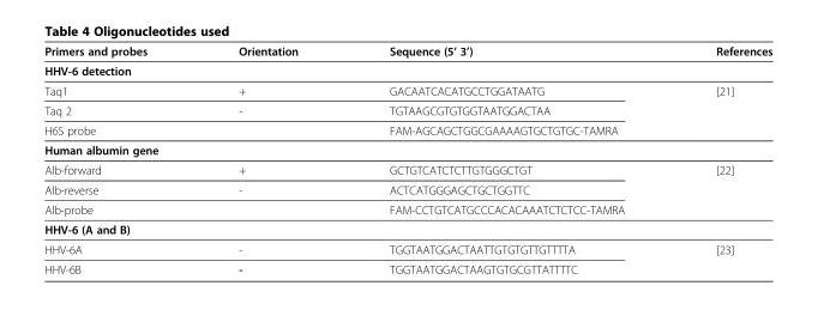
<table><thead><tr><td>Primers and probes</td><td>Orientation</td><td>Sequence (5’ 3’)</td><td>References</td></tr></thead><tbody><tr><td colspan="4">HHV-6 detection</td></tr><tr><td>Taq1</td><td>+</td><td>GACAATCACATGCCTGGATAATG</td><td rowspan="3">[21]</td></tr><tr><td>Taq 2</td><td>-</td><td>TGTAAGCGTGTGGTAATGGACTAA</td></tr><tr><td colspan="2">H6S probe</td><td>FAM-AGCAGCTGGCGAAAAGTGCTGTGC-TAMRA</td></tr><tr><td colspan="4">Human albumin gene</td></tr><tr><td>Alb-forward</td><td>+</td><td>GCTGTCATCTCTTGTGGGCTGT</td><td rowspan="3">[22]</td></tr><tr><td>Alb-reverse</td><td>-</td><td>ACTCATGGGAGCTGCTGGTTC</td></tr><tr><td colspan="2">Alb-probe</td><td>FAM-CCTGTCATGCCCACACAAATCTCTCC-TAMRA</td></tr><tr><td colspan="4">HHV-6 (A and B)</td></tr><tr><td>HHV-6A</td><td>-</td><td>TGGTAATGGACTAATTGTGTGTTGTTTTA</td><td rowspan="2">[23]</td></tr><tr><td>HHV-6B</td><td>-</td><td>TGGTAATGGACTAAGTGTGCGTTATTTTC</td></tr></tbody></table>